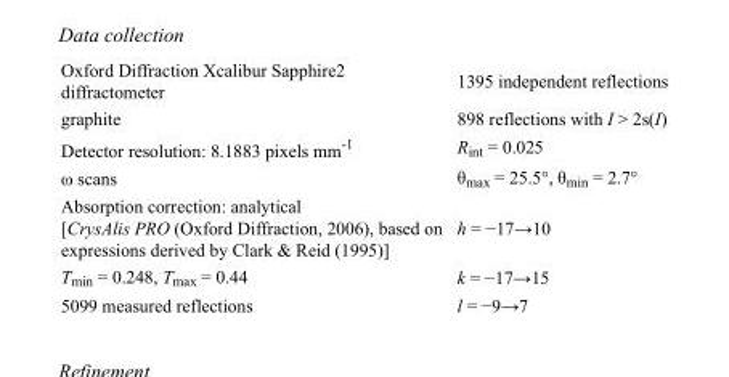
<table><tbody><tr><td>Oxford Diffraction Xcalibur Sapphire2 diffractometer</td><td>1395 independent reflections</td></tr><tr><td>graphite</td><td>898 reflections with I &gt; 2s(I)</td></tr><tr><td>Detector resolution: 8.1883 pixels mm<sup>-1</sup></td><td>R<sub>int</sub> = 0.025</td></tr><tr><td>ω scans</td><td>θ<sub>max</sub> = 25.5°, θ<sub>min</sub> = 2.7°</td></tr><tr><td>Absorption correction: analytical [CrysAlis PRO (Oxford Diffraction, 2006), based on expressions derived by Clark &amp; Reid (1995)]</td><td>h = −17→10</td></tr><tr><td>T<sub>min</sub> = 0.248, T<sub>max</sub> = 0.44</td><td>k = −17→15</td></tr><tr><td>5099 measured reflections</td><td>l = −9→7</td></tr></tbody></table>